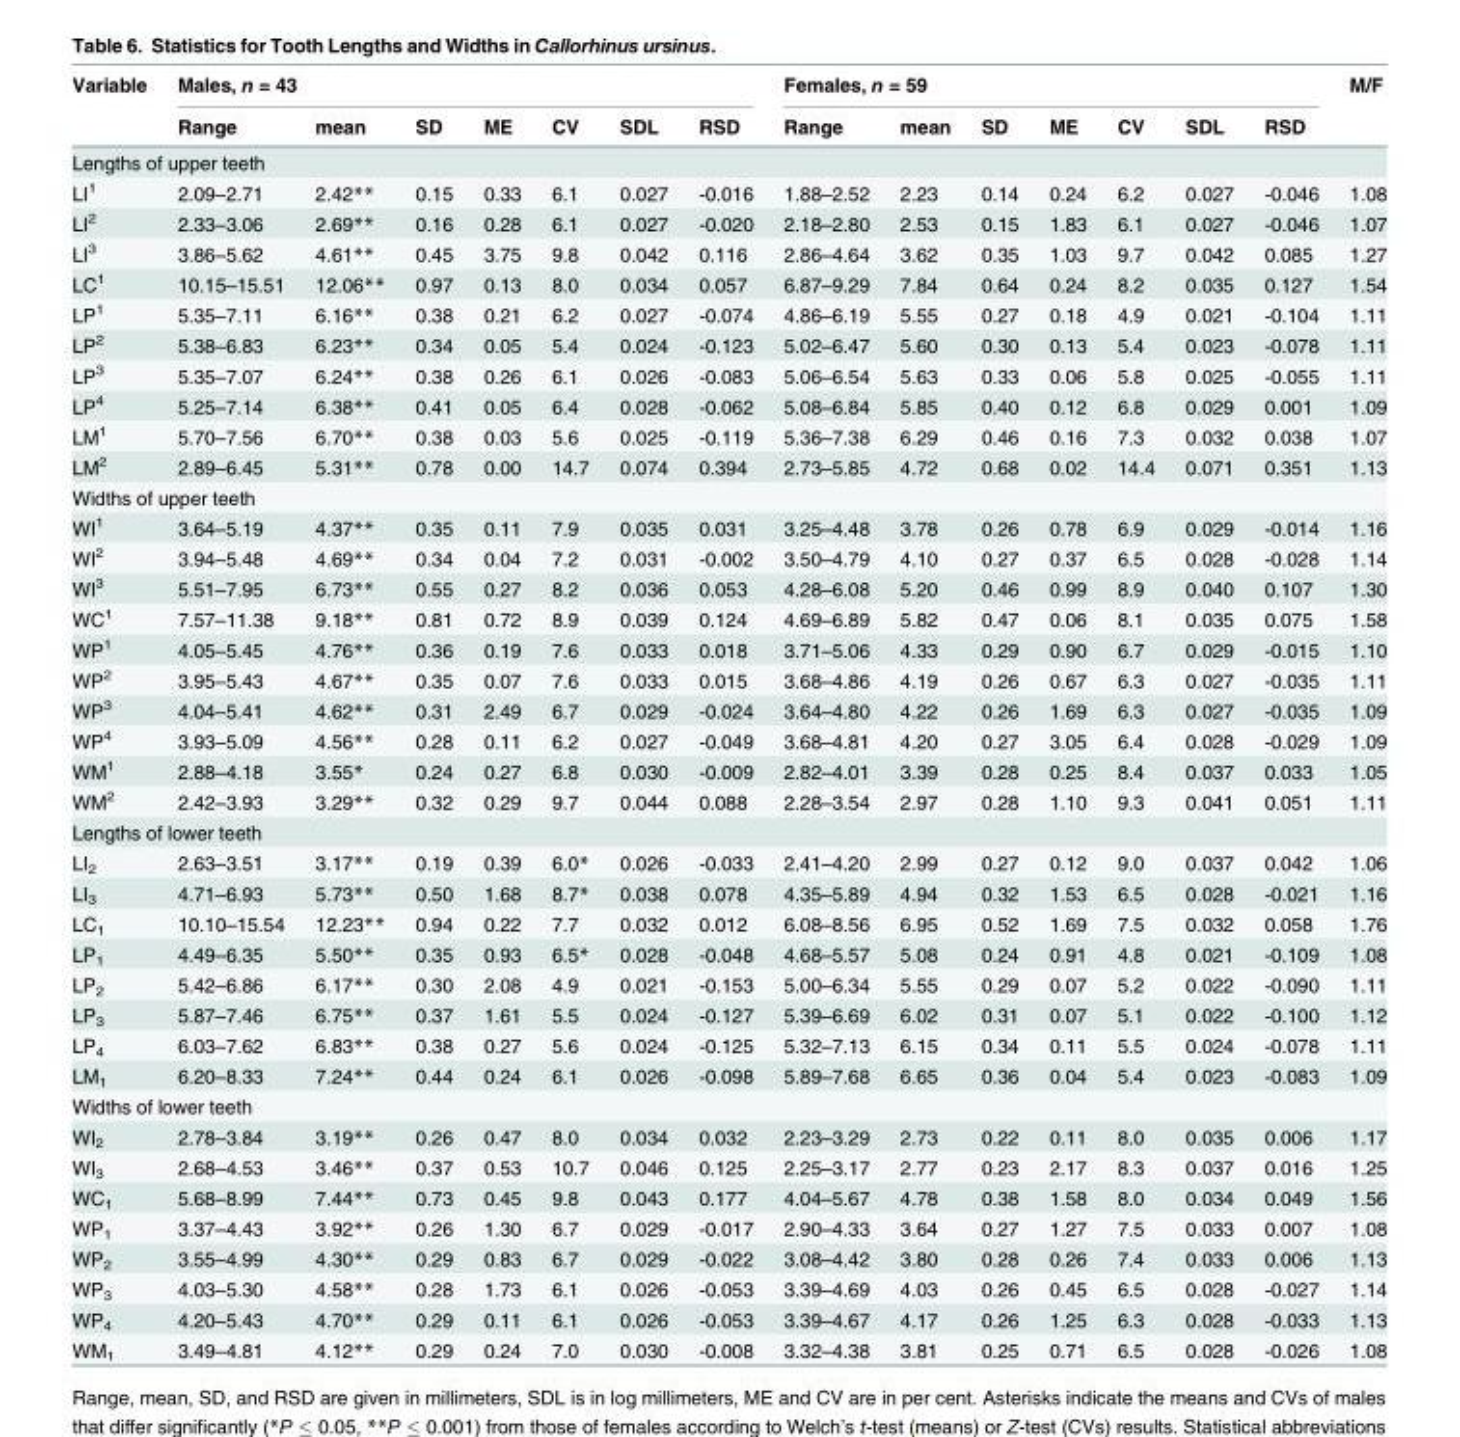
<table><thead><tr><td rowspan="2">Variable</td><td colspan="7">Males, n = 43</td><td colspan="7">Females, n = 59</td><td rowspan="2">M/F</td></tr><tr><td>Range</td><td>mean</td><td>SD</td><td>ME</td><td>CV</td><td>SDL</td><td>RSD</td><td>Range</td><td>mean</td><td>SD</td><td>ME</td><td>CV</td><td>SDL</td><td>RSD</td></tr></thead><tbody><tr><td colspan="16">Lengths of upper teeth</td></tr><tr><td>LI<sup>1</sup></td><td>2.09–2.71</td><td>2.42**</td><td>0.15</td><td>0.33</td><td>6.1</td><td>0.027</td><td>-0.016</td><td>1.88–2.52</td><td>2.23</td><td>0.14</td><td>0.24</td><td>6.2</td><td>0.027</td><td>-0.046</td><td>1.08</td></tr><tr><td>LI<sup>2</sup></td><td>2.33–3.06</td><td>2.69**</td><td>0.16</td><td>0.28</td><td>6.1</td><td>0.027</td><td>-0.020</td><td>2.18–2.80</td><td>2.53</td><td>0.15</td><td>1.83</td><td>6.1</td><td>0.027</td><td>-0.046</td><td>1.07</td></tr><tr><td>LI<sup>3</sup></td><td>3.86–5.62</td><td>4.61**</td><td>0.45</td><td>3.75</td><td>9.8</td><td>0.042</td><td>0.116</td><td>2.86–4.64</td><td>3.62</td><td>0.35</td><td>1.03</td><td>9.7</td><td>0.042</td><td>0.085</td><td>1.27</td></tr><tr><td>LC<sup>1</sup></td><td>10.15–15.51</td><td>12.06**</td><td>0.97</td><td>0.13</td><td>8.0</td><td>0.034</td><td>0.057</td><td>6.87–9.29</td><td>7.84</td><td>0.64</td><td>0.24</td><td>8.2</td><td>0.035</td><td>0.127</td><td>1.54</td></tr><tr><td>LP<sup>1</sup></td><td>5.35–7.11</td><td>6.16**</td><td>0.38</td><td>0.21</td><td>6.2</td><td>0.027</td><td>-0.074</td><td>4.86–6.19</td><td>5.55</td><td>0.27</td><td>0.18</td><td>4.9</td><td>0.021</td><td>-0.104</td><td>1.11</td></tr><tr><td>LP<sup>2</sup></td><td>5.38–6.83</td><td>6.23**</td><td>0.34</td><td>0.05</td><td>5.4</td><td>0.024</td><td>-0.123</td><td>5.02–6.47</td><td>5.60</td><td>0.30</td><td>0.13</td><td>5.4</td><td>0.023</td><td>-0.078</td><td>1.11</td></tr><tr><td>LP<sup>3</sup></td><td>5.35–7.07</td><td>6.24**</td><td>0.38</td><td>0.26</td><td>6.1</td><td>0.026</td><td>-0.083</td><td>5.06–6.54</td><td>5.63</td><td>0.33</td><td>0.06</td><td>5.8</td><td>0.025</td><td>-0.055</td><td>1.11</td></tr><tr><td>LP<sup>4</sup></td><td>5.25–7.14</td><td>6.38**</td><td>0.41</td><td>0.05</td><td>6.4</td><td>0.028</td><td>-0.062</td><td>5.08–6.84</td><td>5.85</td><td>0.40</td><td>0.12</td><td>6.8</td><td>0.029</td><td>0.001</td><td>1.09</td></tr><tr><td>LM<sup>1</sup></td><td>5.70–7.56</td><td>6.70**</td><td>0.38</td><td>0.03</td><td>5.6</td><td>0.025</td><td>-0.119</td><td>5.36–7.38</td><td>6.29</td><td>0.46</td><td>0.16</td><td>7.3</td><td>0.032</td><td>0.038</td><td>1.07</td></tr><tr><td>LM<sup>2</sup></td><td>2.89–6.45</td><td>5.31**</td><td>0.78</td><td>0.00</td><td>14.7</td><td>0.074</td><td>0.394</td><td>2.73–5.85</td><td>4.72</td><td>0.68</td><td>0.02</td><td>14.4</td><td>0.071</td><td>0.351</td><td>1.13</td></tr><tr><td colspan="16">Widths of upper teeth</td></tr><tr><td>WI<sup>1</sup></td><td>3.64–5.19</td><td>4.37**</td><td>0.35</td><td>0.11</td><td>7.9</td><td>0.035</td><td>0.031</td><td>3.25–4.48</td><td>3.78</td><td>0.26</td><td>0.78</td><td>6.9</td><td>0.029</td><td>-0.014</td><td>1.16</td></tr><tr><td>WI<sup>2</sup></td><td>3.94–5.48</td><td>4.69**</td><td>0.34</td><td>0.04</td><td>7.2</td><td>0.031</td><td>-0.002</td><td>3.50–4.79</td><td>4.10</td><td>0.27</td><td>0.37</td><td>6.5</td><td>0.028</td><td>-0.028</td><td>1.14</td></tr><tr><td>WI<sup>3</sup></td><td>5.51–7.95</td><td>6.73**</td><td>0.55</td><td>0.27</td><td>8.2</td><td>0.036</td><td>0.053</td><td>4.28–6.08</td><td>5.20</td><td>0.46</td><td>0.99</td><td>8.9</td><td>0.040</td><td>0.107</td><td>1.30</td></tr><tr><td>WC<sup>1</sup></td><td>7.57–11.38</td><td>9.18**</td><td>0.81</td><td>0.72</td><td>8.9</td><td>0.039</td><td>0.124</td><td>4.69–6.89</td><td>5.82</td><td>0.47</td><td>0.06</td><td>8.1</td><td>0.035</td><td>0.075</td><td>1.58</td></tr><tr><td>WP<sup>1</sup></td><td>4.05–5.45</td><td>4.76**</td><td>0.36</td><td>0.19</td><td>7.6</td><td>0.033</td><td>0.018</td><td>3.71–5.06</td><td>4.33</td><td>0.29</td><td>0.90</td><td>6.7</td><td>0.029</td><td>-0.015</td><td>1.10</td></tr><tr><td>WP<sup>2</sup></td><td>3.95–5.43</td><td>4.67**</td><td>0.35</td><td>0.07</td><td>7.6</td><td>0.033</td><td>0.015</td><td>3.68–4.86</td><td>4.19</td><td>0.26</td><td>0.67</td><td>6.3</td><td>0.027</td><td>-0.035</td><td>1.11</td></tr><tr><td>WP<sup>3</sup></td><td>4.04–5.41</td><td>4.62**</td><td>0.31</td><td>2.49</td><td>6.7</td><td>0.029</td><td>-0.024</td><td>3.64–4.80</td><td>4.22</td><td>0.26</td><td>1.69</td><td>6.3</td><td>0.027</td><td>-0.035</td><td>1.09</td></tr><tr><td>WP<sup>4</sup></td><td>3.93–5.09</td><td>4.56**</td><td>0.28</td><td>0.11</td><td>6.2</td><td>0.027</td><td>-0.049</td><td>3.68–4.81</td><td>4.20</td><td>0.27</td><td>3.05</td><td>6.4</td><td>0.028</td><td>-0.029</td><td>1.09</td></tr><tr><td>WM<sup>1</sup></td><td>2.88–4.18</td><td>3.55*</td><td>0.24</td><td>0.27</td><td>6.8</td><td>0.030</td><td>-0.009</td><td>2.82–4.01</td><td>3.39</td><td>0.28</td><td>0.25</td><td>8.4</td><td>0.037</td><td>0.033</td><td>1.05</td></tr><tr><td>WM<sup>2</sup></td><td>2.42–3.93</td><td>3.29**</td><td>0.32</td><td>0.29</td><td>9.7</td><td>0.044</td><td>0.088</td><td>2.28–3.54</td><td>2.97</td><td>0.28</td><td>1.10</td><td>9.3</td><td>0.041</td><td>0.051</td><td>1.11</td></tr><tr><td colspan="16">Lengths of lower teeth</td></tr><tr><td>LI<sub>2</sub></td><td>2.63–3.51</td><td>3.17**</td><td>0.19</td><td>0.39</td><td>6.0*</td><td>0.026</td><td>-0.033</td><td>2.41–4.20</td><td>2.99</td><td>0.27</td><td>0.12</td><td>9.0</td><td>0.037</td><td>0.042</td><td>1.06</td></tr><tr><td>LI<sub>3</sub></td><td>4.71–6.93</td><td>5.73**</td><td>0.50</td><td>1.68</td><td>8.7*</td><td>0.038</td><td>0.078</td><td>4.35–5.89</td><td>4.94</td><td>0.32</td><td>1.53</td><td>6.5</td><td>0.028</td><td>-0.021</td><td>1.16</td></tr><tr><td>LC<sub>1</sub></td><td>10.10–15.54</td><td>12.23**</td><td>0.94</td><td>0.22</td><td>7.7</td><td>0.032</td><td>0.012</td><td>6.08–8.56</td><td>6.95</td><td>0.52</td><td>1.69</td><td>7.5</td><td>0.032</td><td>0.058</td><td>1.76</td></tr><tr><td>LP<sub>1</sub></td><td>4.49–6.35</td><td>5.50**</td><td>0.35</td><td>0.93</td><td>6.5*</td><td>0.028</td><td>-0.048</td><td>4.68–5.57</td><td>5.08</td><td>0.24</td><td>0.91</td><td>4.8</td><td>0.021</td><td>-0.109</td><td>1.08</td></tr><tr><td>LP<sub>2</sub></td><td>5.42–6.86</td><td>6.17**</td><td>0.30</td><td>2.08</td><td>4.9</td><td>0.021</td><td>-0.153</td><td>5.00–6.34</td><td>5.55</td><td>0.29</td><td>0.07</td><td>5.2</td><td>0.022</td><td>-0.090</td><td>1.11</td></tr><tr><td>LP<sub>3</sub></td><td>5.87–7.46</td><td>6.75**</td><td>0.37</td><td>1.61</td><td>5.5</td><td>0.024</td><td>-0.127</td><td>5.39–6.69</td><td>6.02</td><td>0.31</td><td>0.07</td><td>5.1</td><td>0.022</td><td>-0.100</td><td>1.12</td></tr><tr><td>LP<sub>4</sub></td><td>6.03–7.62</td><td>6.83**</td><td>0.38</td><td>0.27</td><td>5.6</td><td>0.024</td><td>-0.125</td><td>5.32–7.13</td><td>6.15</td><td>0.34</td><td>0.11</td><td>5.5</td><td>0.024</td><td>-0.078</td><td>1.11</td></tr><tr><td>LM<sub>1</sub></td><td>6.20–8.33</td><td>7.24**</td><td>0.44</td><td>0.24</td><td>6.1</td><td>0.026</td><td>-0.098</td><td>5.89–7.68</td><td>6.65</td><td>0.36</td><td>0.04</td><td>5.4</td><td>0.023</td><td>-0.083</td><td>1.09</td></tr><tr><td colspan="16">Widths of lower teeth</td></tr><tr><td>WI<sub>2</sub></td><td>2.78–3.84</td><td>3.19**</td><td>0.26</td><td>0.47</td><td>8.0</td><td>0.034</td><td>0.032</td><td>2.23–3.29</td><td>2.73</td><td>0.22</td><td>0.11</td><td>8.0</td><td>0.035</td><td>0.006</td><td>1.17</td></tr><tr><td>WI<sub>3</sub></td><td>2.68–4.53</td><td>3.46**</td><td>0.37</td><td>0.53</td><td>10.7</td><td>0.046</td><td>0.125</td><td>2.25–3.17</td><td>2.77</td><td>0.23</td><td>2.17</td><td>8.3</td><td>0.037</td><td>0.016</td><td>1.25</td></tr><tr><td>WC<sub>1</sub></td><td>5.68–8.99</td><td>7.44**</td><td>0.73</td><td>0.45</td><td>9.8</td><td>0.043</td><td>0.177</td><td>4.04–5.67</td><td>4.78</td><td>0.38</td><td>1.58</td><td>8.0</td><td>0.034</td><td>0.049</td><td>1.56</td></tr><tr><td>WP<sub>1</sub></td><td>3.37–4.43</td><td>3.92**</td><td>0.26</td><td>1.30</td><td>6.7</td><td>0.029</td><td>-0.017</td><td>2.90–4.33</td><td>3.64</td><td>0.27</td><td>1.27</td><td>7.5</td><td>0.033</td><td>0.007</td><td>1.08</td></tr><tr><td>WP<sub>2</sub></td><td>3.55–4.99</td><td>4.30**</td><td>0.29</td><td>0.83</td><td>6.7</td><td>0.029</td><td>-0.022</td><td>3.08–4.42</td><td>3.80</td><td>0.28</td><td>0.26</td><td>7.4</td><td>0.033</td><td>0.006</td><td>1.13</td></tr><tr><td>WP<sub>3</sub></td><td>4.03–5.30</td><td>4.58**</td><td>0.28</td><td>1.73</td><td>6.1</td><td>0.026</td><td>-0.053</td><td>3.39–4.69</td><td>4.03</td><td>0.26</td><td>0.45</td><td>6.5</td><td>0.028</td><td>-0.027</td><td>1.14</td></tr><tr><td>WP<sub>4</sub></td><td>4.20–5.43</td><td>4.70**</td><td>0.29</td><td>0.11</td><td>6.1</td><td>0.026</td><td>-0.053</td><td>3.39–4.67</td><td>4.17</td><td>0.26</td><td>1.25</td><td>6.3</td><td>0.028</td><td>-0.033</td><td>1.13</td></tr><tr><td>WM<sub>1</sub></td><td>3.49–4.81</td><td>4.12**</td><td>0.29</td><td>0.24</td><td>7.0</td><td>0.030</td><td>-0.008</td><td>3.32–4.38</td><td>3.81</td><td>0.25</td><td>0.71</td><td>6.5</td><td>0.028</td><td>-0.026</td><td>1.08</td></tr></tbody></table>